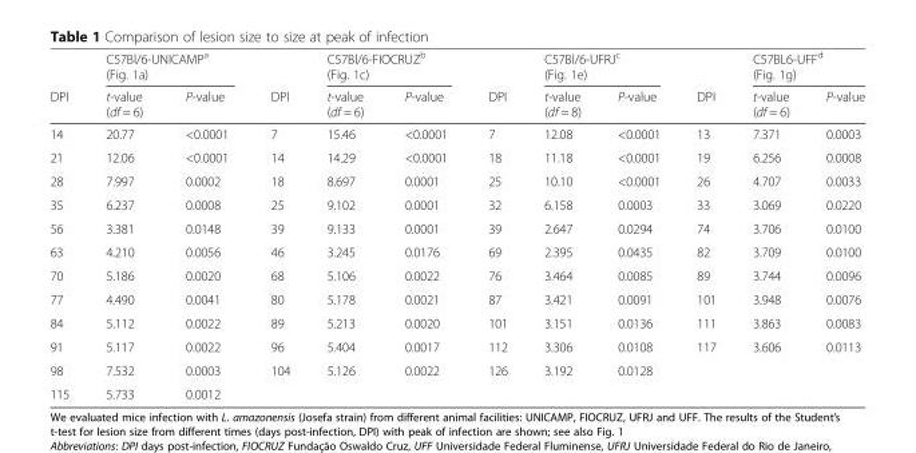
<table><thead><tr><td rowspan="2">DPI</td><td colspan="2">C57Bl/6-UNICAMP<sup>a</sup> (Fig. 1a)</td><td rowspan="2">DPI</td><td colspan="2">C57Bl/6-FIOCRUZ<sup>b</sup> (Fig. 1c)</td><td rowspan="2">DPI</td><td colspan="2">C57Bl/6-UFRJ<sup>c</sup> (Fig. 1e)</td><td rowspan="2">DPI</td><td colspan="2">C57BL6-UFF<sup>d</sup> (Fig. 1g)</td></tr><tr><td>t-value (df = 6)</td><td>P-value</td><td>t-value (df = 6)</td><td>P-value</td><td>t-value (df = 8)</td><td>P-value</td><td>t-value (df = 6)</td><td>P-value</td></tr></thead><tbody><tr><td>14</td><td>20.77</td><td>&lt;0.0001</td><td>7</td><td>15.46</td><td>&lt;0.0001</td><td>7</td><td>12.08</td><td>&lt;0.0001</td><td>13</td><td>7.371</td><td>0.0003</td></tr><tr><td>21</td><td>12.06</td><td>&lt;0.0001</td><td>14</td><td>14.29</td><td>&lt;0.0001</td><td>18</td><td>11.18</td><td>&lt;0.0001</td><td>19</td><td>6.256</td><td>0.0008</td></tr><tr><td>28</td><td>7.997</td><td>0.0002</td><td>18</td><td>8.697</td><td>0.0001</td><td>25</td><td>10.10</td><td>&lt;0.0001</td><td>26</td><td>4.707</td><td>0.0033</td></tr><tr><td>35</td><td>6.237</td><td>0.0008</td><td>25</td><td>9.102</td><td>0.0001</td><td>32</td><td>6.158</td><td>0.0003</td><td>33</td><td>3.069</td><td>0.0220</td></tr><tr><td>56</td><td>3.381</td><td>0.0148</td><td>39</td><td>9.133</td><td>0.0001</td><td>39</td><td>2.647</td><td>0.0294</td><td>74</td><td>3.706</td><td>0.0100</td></tr><tr><td>63</td><td>4.210</td><td>0.0056</td><td>46</td><td>3.245</td><td>0.0176</td><td>69</td><td>2.395</td><td>0.0435</td><td>82</td><td>3.709</td><td>0.0100</td></tr><tr><td>70</td><td>5.186</td><td>0.0020</td><td>68</td><td>5.106</td><td>0.0022</td><td>76</td><td>3.464</td><td>0.0085</td><td>89</td><td>3.744</td><td>0.0096</td></tr><tr><td>77</td><td>4.490</td><td>0.0041</td><td>80</td><td>5.178</td><td>0.0021</td><td>87</td><td>3.421</td><td>0.0091</td><td>101</td><td>3.948</td><td>0.0076</td></tr><tr><td>84</td><td>5.112</td><td>0.0022</td><td>89</td><td>5.213</td><td>0.0020</td><td>101</td><td>3.151</td><td>0.0136</td><td>111</td><td>3.863</td><td>0.0083</td></tr><tr><td>91</td><td>5.117</td><td>0.0022</td><td>96</td><td>5.404</td><td>0.0017</td><td>112</td><td>3.306</td><td>0.0108</td><td>117</td><td>3.606</td><td>0.0113</td></tr><tr><td>98</td><td>7.532</td><td>0.0003</td><td>104</td><td>5.126</td><td>0.0022</td><td>126</td><td>3.192</td><td>0.0128</td><td></td><td></td><td></td></tr><tr><td>115</td><td>5.733</td><td>0.0012</td><td></td><td></td><td></td><td></td><td></td><td></td><td></td><td></td><td></td></tr></tbody></table>